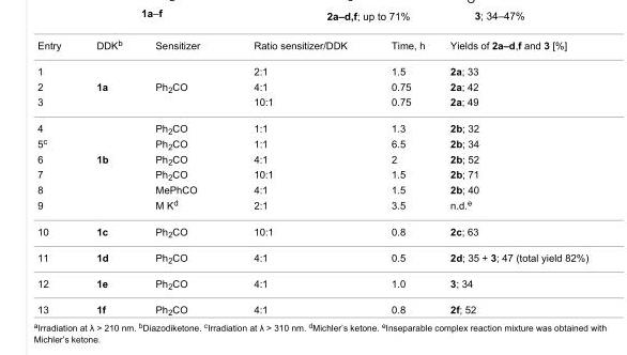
<table><tbody><tr><td>Entry</td><td>DDK<sup>b</sup></td><td>Sensitizer</td><td>Ratio sensitizer/DDK</td><td>Time, h</td><td>Yields of 2a–d,f and 3 [%]</td></tr><tr><td>1</td><td></td><td></td><td>2:1</td><td>1.5</td><td>2a; 33</td></tr><tr><td>2</td><td>1a</td><td>Ph<sub>2</sub>CO</td><td>4:1</td><td>0.75</td><td>2a; 42</td></tr><tr><td>3</td><td></td><td></td><td>10:1</td><td>0.75</td><td>2a; 49</td></tr><tr><td>4</td><td></td><td>Ph<sub>2</sub>CO</td><td>1:1</td><td>1.3</td><td>2b; 32</td></tr><tr><td>5<sup>c</sup></td><td></td><td>Ph<sub>2</sub>CO</td><td>1:1</td><td>6.5</td><td>2b; 34</td></tr><tr><td>6</td><td>1b</td><td>Ph<sub>2</sub>CO</td><td>4:1</td><td>2</td><td>2b; 52</td></tr><tr><td>7</td><td></td><td>Ph<sub>2</sub>CO</td><td>10:1</td><td>1.5</td><td>2b; 71</td></tr><tr><td>8</td><td></td><td>MePhCO</td><td>4:1</td><td>1.5</td><td>2b; 40</td></tr><tr><td>9</td><td></td><td>M K<sup>d</sup></td><td>2:1</td><td>3.5</td><td>n.d.<sup>e</sup></td></tr><tr><td>10</td><td>1c</td><td>Ph<sub>2</sub>CO</td><td>10:1</td><td>0.8</td><td>2c; 63</td></tr><tr><td>11</td><td>1d</td><td>Ph<sub>2</sub>CO</td><td>4:1</td><td>0.5</td><td>2d; 35 + 3; 47 (total yield 82%)</td></tr><tr><td>12</td><td>1e</td><td>Ph<sub>2</sub>CO</td><td>4:1</td><td>1.0</td><td>3; 34</td></tr><tr><td>13</td><td>1f</td><td>Ph<sub>2</sub>CO</td><td>4:1</td><td>0.8</td><td>2f; 52</td></tr></tbody></table>